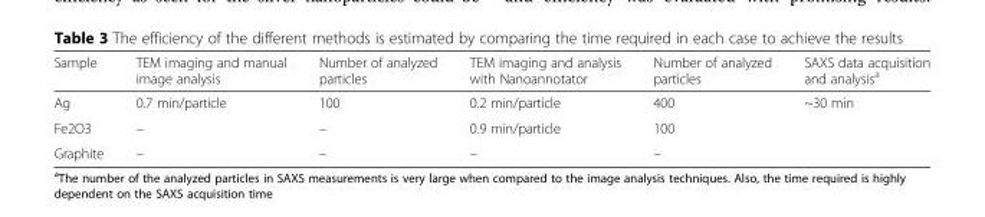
<table><thead><tr><td>Sample</td><td>TEM imaging and manual image analysis</td><td>Number of analyzed particles</td><td>TEM imaging and analysis with Nanoannotator</td><td>Number of analyzed particles</td><td>SAXS data acquisition and analysis<sup>a</sup></td></tr></thead><tbody><tr><td>Ag</td><td>0.7 min/particle</td><td>100</td><td>0.2 min/particle</td><td>400</td><td rowspan="3">~30 min</td></tr><tr><td>Fe2O3</td><td>–</td><td>–</td><td>0.9 min/particle</td><td>100</td></tr><tr><td>Graphite</td><td>–</td><td>–</td><td>–</td><td>–</td></tr></tbody></table>